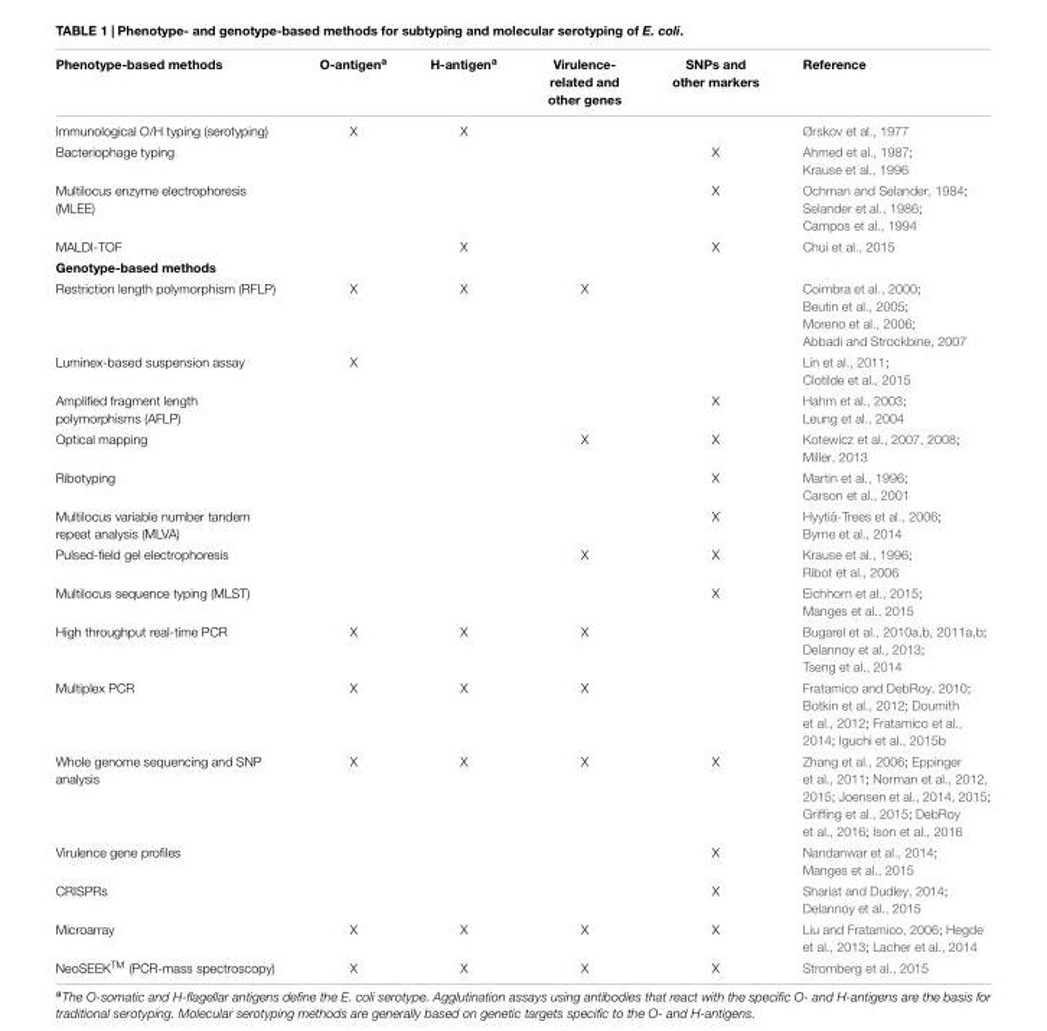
<table><thead><tr><td>Phenotype-based methods</td><td>O-antigen<sup>a</sup></td><td>H-antigen<sup>a</sup></td><td>Virulence- related and other genes</td><td>SNPs and other markers</td><td>Reference</td></tr></thead><tbody><tr><td>Immunological O/H typing (serotyping)</td><td>X</td><td>X</td><td></td><td></td><td>Ørskov et al., 1977</td></tr><tr><td>Bacteriophage typing</td><td></td><td></td><td></td><td>X</td><td>Ahmed et al., 1987; Krause et al., 1996</td></tr><tr><td>Multilocus enzyme electrophoresis (MLEE)</td><td></td><td></td><td></td><td>X</td><td>Ochman and Selander, 1984; Selander et al., 1986; Campos et al., 1994</td></tr><tr><td>MALDI-TOF</td><td></td><td>X</td><td></td><td>X</td><td>Chui et al., 2015</td></tr><tr><td colspan="6">Genotype-based methods</td></tr><tr><td>Restriction length polymorphism (RFLP)</td><td>X</td><td>X</td><td>X</td><td></td><td>Coimbra et al., 2000; Beutin et al., 2005; Moreno et al., 2006; Abbadi and Strockbine, 2007</td></tr><tr><td>Luminex-based suspension assay</td><td>X</td><td></td><td></td><td></td><td>Lin et al., 2011; Clotilde et al., 2015</td></tr><tr><td>Amplified fragment length polymorphisms (AFLP)</td><td></td><td></td><td></td><td>X</td><td>Hahm et al., 2003; Leung et al., 2004</td></tr><tr><td>Optical mapping</td><td></td><td></td><td>X</td><td>X</td><td>Kotewicz et al., 2007, 2008; Miller, 2013</td></tr><tr><td>Ribotyping</td><td></td><td></td><td></td><td>X</td><td>Martin et al., 1996; Carson et al., 2001</td></tr><tr><td>Multilocus variable number tandem repeat analysis (MLVA)</td><td></td><td></td><td></td><td>X</td><td>Hyytiä-Trees et al., 2006; Byrne et al., 2014</td></tr><tr><td>Pulsed-field gel electrophoresis</td><td></td><td></td><td>X</td><td>X</td><td>Krause et al., 1996; Ribot et al., 2006</td></tr><tr><td>Multilocus sequence typing (MLST)</td><td></td><td></td><td></td><td>X</td><td>Eichhorn et al., 2015; Manges et al., 2015</td></tr><tr><td>High throughput real-time PCR</td><td>X</td><td>X</td><td>X</td><td></td><td>Bugarel et al., 2010a,b, 2011a,b; Delannoy et al., 2013; Tseng et al., 2014</td></tr><tr><td>Multiplex PCR</td><td>X</td><td>X</td><td>X</td><td></td><td>Fratamico and DebRoy, 2010; Botkin et al., 2012; Doumith et al., 2012; Fratamico et al., 2014; Iguchi et al., 2015b</td></tr><tr><td>Whole genome sequencing and SNP analysis</td><td>X</td><td>X</td><td>X</td><td>X</td><td>Zhang et al., 2006; Eppinger et al., 2011; Norman et al., 2012, 2015; Joensen et al., 2014, 2015; Griffing et al., 2015; DebRoy et al., 2016; Ison et al., 2016</td></tr><tr><td>Virulence gene profiles</td><td></td><td></td><td></td><td>X</td><td>Nandanwar et al., 2014; Manges et al., 2015</td></tr><tr><td>CRISPRs</td><td></td><td></td><td></td><td>X</td><td>Shariat and Dudley, 2014; Delannoy et al., 2015</td></tr><tr><td>Microarray</td><td>X</td><td>X</td><td>X</td><td>X</td><td>Liu and Fratamico, 2006; Hegde et al., 2013; Lacher et al., 2014</td></tr><tr><td>NeoSEEK<sup>TM</sup> (PCR-mass spectroscopy)</td><td>X</td><td>X</td><td>X</td><td>X</td><td>Stromberg et al., 2015</td></tr></tbody></table>